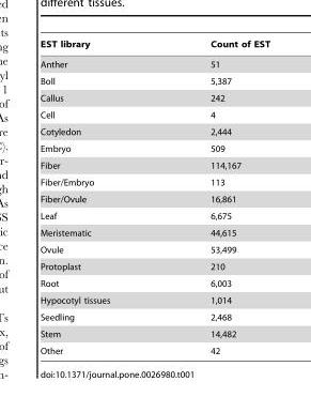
<table><thead><tr><td>EST library</td><td>Count of EST</td></tr></thead><tbody><tr><td>Anther</td><td>51</td></tr><tr><td>Boll</td><td>5,387</td></tr><tr><td>Callus</td><td>242</td></tr><tr><td>Cell</td><td>4</td></tr><tr><td>Cotyledon</td><td>2,444</td></tr><tr><td>Embryo</td><td>509</td></tr><tr><td>Fiber</td><td>114,167</td></tr><tr><td>Fiber/Embryo</td><td>113</td></tr><tr><td>Fiber/Ovule</td><td>16,861</td></tr><tr><td>Leaf</td><td>6,675</td></tr><tr><td>Meristematic</td><td>44,615</td></tr><tr><td>Ovule</td><td>53,499</td></tr><tr><td>Protoplast</td><td>210</td></tr><tr><td>Root</td><td>6,003</td></tr><tr><td>Hypocotyl tissues</td><td>1,014</td></tr><tr><td>Seedling</td><td>2,468</td></tr><tr><td>Stem</td><td>14,482</td></tr><tr><td>Other</td><td>42</td></tr></tbody></table>